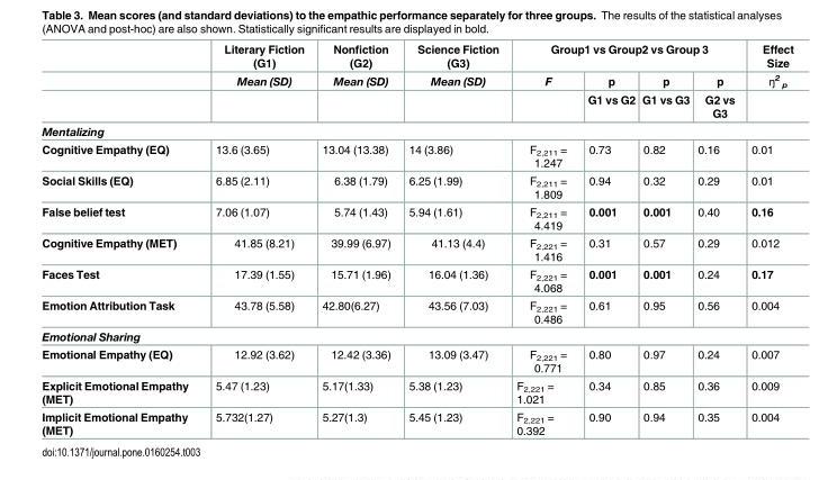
<table><thead><tr><td rowspan="3"></td><td rowspan="3">Literary Fiction (G1) Mean (SD)</td><td rowspan="3">Nonfiction (G2) Mean (SD)</td><td rowspan="3">Science Fiction (G3) Mean (SD)</td><td colspan="4">Group1 vs Group2 vs Group 3</td><td rowspan="3">Effect Size ŋ<sup>2</sup> <sub>p</sub></td></tr><tr><td rowspan="2">F</td><td rowspan="2">p G1 vs G2</td><td rowspan="2">p G1 vs G3</td><td rowspan="2">p G2 vs G3</td></tr><tr></tr></thead><tbody><tr><td colspan="9">Mentalizing</td></tr><tr><td>Cognitive Empathy (EQ)</td><td>13.6 (3.65)</td><td>13.04 (13.38)</td><td>14 (3.86)</td><td>F<sub>2,211</sub> = 1.247</td><td>0.73</td><td>0.82</td><td>0.16</td><td>0.01</td></tr><tr><td>Social Skills (EQ)</td><td>6.85 (2.11)</td><td>6.38 (1.79)</td><td>6.25 (1.99)</td><td>F<sub>2,211</sub> = 1.809</td><td>0.94</td><td>0.32</td><td>0.29</td><td>0.01</td></tr><tr><td>False belief test</td><td>7.06 (1.07)</td><td>5.74 (1.43)</td><td>5.94 (1.61)</td><td>F<sub>2,211</sub> = 4.419</td><td>0.001</td><td>0.001</td><td>0.40</td><td>0.16</td></tr><tr><td>Cognitive Empathy (MET)</td><td>41.85 (8.21)</td><td>39.99 (6.97)</td><td>41.13 (4.4)</td><td>F<sub>2,221</sub> = 1.416</td><td>0.31</td><td>0.57</td><td>0.29</td><td>0.012</td></tr><tr><td>Faces Test</td><td>17.39 (1.55)</td><td>15.71 (1.96)</td><td>16.04 (1.36)</td><td>F<sub>2,221</sub> = 4.068</td><td>0.001</td><td>0.001</td><td>0.24</td><td>0.17</td></tr><tr><td>Emotion Attribution Task</td><td>43.78 (5.58)</td><td>42.80(6.27)</td><td>43.56 (7.03)</td><td>F<sub>2,221</sub> = 0.486</td><td>0.61</td><td>0.95</td><td>0.56</td><td>0.004</td></tr><tr><td colspan="9">Emotional Sharing</td></tr><tr><td>Emotional Empathy (EQ)</td><td>12.92 (3.62)</td><td>12.42 (3.36)</td><td>13.09 (3.47)</td><td>F<sub>2,221</sub> = 0.771</td><td>0.80</td><td>0.97</td><td>0.24</td><td>0.007</td></tr><tr><td>Explicit Emotional Empathy (MET)</td><td>5.47 (1.23)</td><td>5.17(1.33)</td><td>5.38 (1.23)</td><td>F<sub>2,221</sub> = 1.021</td><td>0.34</td><td>0.85</td><td>0.36</td><td>0.009</td></tr><tr><td>Implicit Emotional Empathy (MET)</td><td>5.732(1.27)</td><td>5.27(1.3)</td><td>5.45 (1.23)</td><td>F<sub>2,221</sub> = 0.392</td><td>0.90</td><td>0.94</td><td>0.35</td><td>0.004</td></tr></tbody></table>